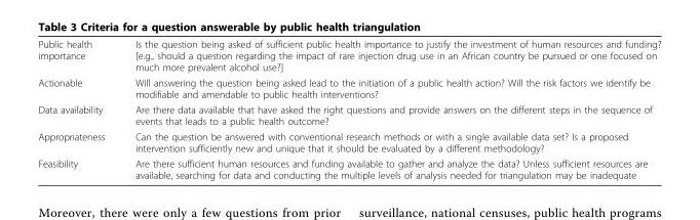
<table><tbody><tr><td>Public health importance</td><td>Is the question being asked of sufficient public health importance to justify the investment of human resources and funding? [e.g., should a question regarding the impact of rare injection drug use in an African country be pursued or one focused on much more prevalent alcohol use?]</td></tr><tr><td>Actionable</td><td>Will answering the question being asked lead to the initiation of a public health action? Will the risk factors we identify be modifiable and amendable to public health interventions?</td></tr><tr><td>Data availability</td><td>Are there data available that have asked the right questions and provide answers on the different steps in the sequence of events that leads to a public health outcome?</td></tr><tr><td>Appropriateness</td><td>Can the question be answered with conventional research methods or with a single available data set? Is a proposed intervention sufficiently new and unique that it should be evaluated by a different methodology?</td></tr><tr><td>Feasibility</td><td>Are there sufficient human resources and funding available to gather and analyze the data? Unless sufficient resources are available, searching for data and conducting the multiple levels of analysis needed for triangulation may be inadequate</td></tr></tbody></table>